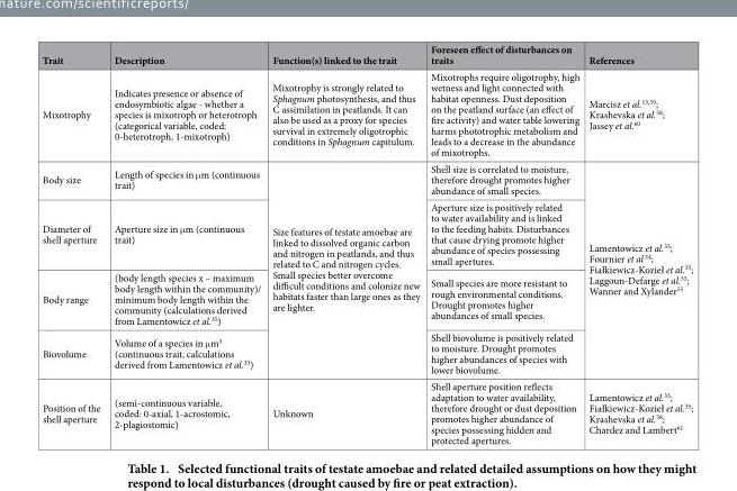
<table><thead><tr><td>Trait</td><td>Description</td><td>Function(s) linked to the trait</td><td>Foreseen effect of disturbances on traits</td><td>References</td></tr></thead><tbody><tr><td>Mixotrophy</td><td>Indicates presence or absence of endosymbiotic algae - whether a species is mixotroph or heterotroph (categorical variable, coded: 0-heterotroph, 1-mixotroph)</td><td>Mixotrophy is strongly related to Sphagnum photosynthesis, and thus C assimilation in peatlands. It can also be used as a proxy for species survival in extremely oligotrophic conditions in Sphagnum capitulum.</td><td>Mixotrophs require oligotrophy, high wetness and light connected with habitat openness. Dust deposition on the peatland surface (an effect of fire activity) and water table lowering harms phototrophic metabolism and leads to a decrease in the abundance of mixotrophs.</td><td>Marcisz et al.<sup>13</sup>,<sup>39</sup>; Krashevska et al.<sup>58</sup>; Jassey et al.<sup>60</sup></td></tr><tr><td>Body size</td><td>Length of species in μ m (continuous trait)</td><td rowspan="4">Size features of testate amoebae are linked to dissolved organic carbon and nitrogen in peatlands, and thus related to C and nitrogen cycles. Small species better overcome difficult conditions and colonize new habitats faster than large ones as they are lighter.</td><td>Shell size is correlated to moisture, therefore drought promotes higher abundance of small species.</td><td rowspan="4">Lamentowicz et al.33; Fournier et al.34; Fiałkiewicz-Kozieł et al.35; Laggoun-Defarge et al.53; Wanner and Xylander55</td></tr><tr><td>Diameter of shell aperture</td><td>Aperture size in μ m (continuous trait)</td><td>Aperture size is positively related to water availability and is linked to the feeding habits. Disturbances that cause drying promote higher abundance of species possessing small apertures.</td></tr><tr><td>Body range</td><td>(body length species x – maximum body length within the community)/ minimum body length within the community (calculations derived from Lamentowicz et al.<sup>35</sup>)</td><td>Small species are more resistant to rough environmental conditions. Drought promotes higher abundances of small species.</td></tr><tr><td>Biovolume</td><td>Volume of a species in μ m<sup>3</sup> (continuous trait, calculations derived from Lamentowicz et al.<sup>35</sup>)</td><td>Shell biovolume is positively related to moisture. Drought promotes higher abundances of species with lower biovolume.</td></tr><tr><td>Position of the shell aperture</td><td>(semi-continuous variable, coded: 0-axial, 1-acrostomic, 2-plagiostomic)</td><td>Unknown</td><td>Shell aperture position reflects adaptation to water availability, therefore drought or dust deposition promotes higher abundance of species possessing hidden and protected apertures.</td><td>Lamentowicz et al.<sup>33</sup>; Fiałkiewicz-Kozieł et al.<sup>35</sup>; Krashevska et al.<sup>58</sup>; Chardez and Lambert<sup>61</sup></td></tr></tbody></table>